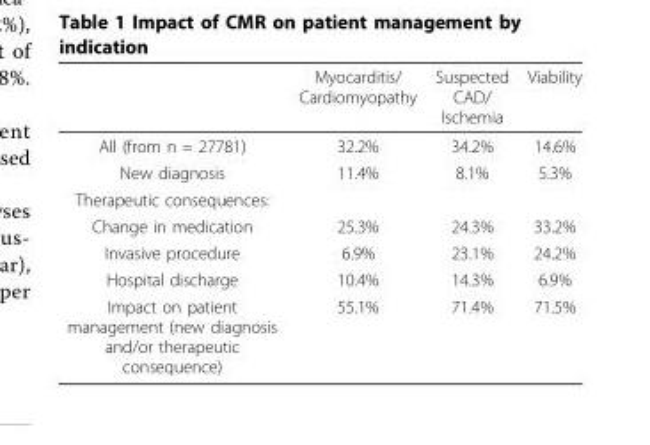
<table><thead><tr><td></td><td>Myocarditis/ Cardiomyopathy</td><td>Suspected CAD/ Ischemia</td><td>Viability</td></tr></thead><tbody><tr><td>All (from n = 27781)</td><td>32.2%</td><td>34.2%</td><td>14.6%</td></tr><tr><td>New diagnosis</td><td>11.4%</td><td>8.1%</td><td>5.3%</td></tr><tr><td colspan="4">Therapeutic consequences:</td></tr><tr><td>Change in medication</td><td>25.3%</td><td>24.3%</td><td>33.2%</td></tr><tr><td>Invasive procedure</td><td>6.9%</td><td>23.1%</td><td>24.2%</td></tr><tr><td>Hospital discharge</td><td>10.4%</td><td>14.3%</td><td>6.9%</td></tr><tr><td>Impact on patient management (new diagnosis and/or therapeutic consequence)</td><td>55.1%</td><td>71.4%</td><td>71.5%</td></tr></tbody></table>